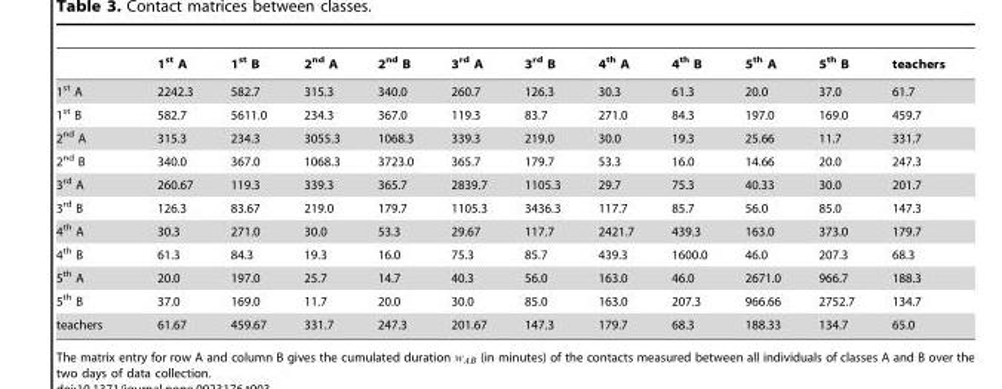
<table><thead><tr><td></td><td>1<sup>st</sup> A</td><td>1<sup>st</sup> B</td><td>2<sup>nd</sup> A</td><td>2<sup>nd</sup> B</td><td>3<sup>rd</sup> A</td><td>3<sup>rd</sup> B</td><td>4<sup>th</sup> A</td><td>4<sup>th</sup> B</td><td>5<sup>th</sup> A</td><td>5<sup>th</sup> B</td><td>teachers</td></tr></thead><tbody><tr><td>1<sup>st</sup> A</td><td>2242.3</td><td>582.7</td><td>315.3</td><td>340.0</td><td>260.7</td><td>126.3</td><td>30.3</td><td>61.3</td><td>20.0</td><td>37.0</td><td>61.7</td></tr><tr><td>1<sup>st</sup> B</td><td>582.7</td><td>5611.0</td><td>234.3</td><td>367.0</td><td>119.3</td><td>83.7</td><td>271.0</td><td>84.3</td><td>197.0</td><td>169.0</td><td>459.7</td></tr><tr><td>2<sup>nd</sup> A</td><td>315.3</td><td>234.3</td><td>3055.3</td><td>1068.3</td><td>339.3</td><td>219.0</td><td>30.0</td><td>19.3</td><td>25.66</td><td>11.7</td><td>331.7</td></tr><tr><td>2<sup>nd</sup> B</td><td>340.0</td><td>367.0</td><td>1068.3</td><td>3723.0</td><td>365.7</td><td>179.7</td><td>53.3</td><td>16.0</td><td>14.66</td><td>20.0</td><td>247.3</td></tr><tr><td>3<sup>rd</sup> A</td><td>260.67</td><td>119.3</td><td>339.3</td><td>365.7</td><td>2839.7</td><td>1105.3</td><td>29.7</td><td>75.3</td><td>40.33</td><td>30.0</td><td>201.7</td></tr><tr><td>3<sup>rd</sup> B</td><td>126.3</td><td>83.67</td><td>219.0</td><td>179.7</td><td>1105.3</td><td>3436.3</td><td>117.7</td><td>85.7</td><td>56.0</td><td>85.0</td><td>147.3</td></tr><tr><td>4<sup>th</sup> A</td><td>30.3</td><td>271.0</td><td>30.0</td><td>53.3</td><td>29.67</td><td>117.7</td><td>2421.7</td><td>439.3</td><td>163.0</td><td>373.0</td><td>179.7</td></tr><tr><td>4<sup>th</sup> B</td><td>61.3</td><td>84.3</td><td>19.3</td><td>16.0</td><td>75.3</td><td>85.7</td><td>439.3</td><td>1600.0</td><td>46.0</td><td>207.3</td><td>68.3</td></tr><tr><td>5<sup>th</sup> A</td><td>20.0</td><td>197.0</td><td>25.7</td><td>14.7</td><td>40.3</td><td>56.0</td><td>163.0</td><td>46.0</td><td>2671.0</td><td>966.7</td><td>188.3</td></tr><tr><td>5<sup>th</sup> B</td><td>37.0</td><td>169.0</td><td>11.7</td><td>20.0</td><td>30.0</td><td>85.0</td><td>163.0</td><td>207.3</td><td>966.66</td><td>2752.7</td><td>134.7</td></tr><tr><td>teachers</td><td>61.67</td><td>459.67</td><td>331.7</td><td>247.3</td><td>201.67</td><td>147.3</td><td>179.7</td><td>68.3</td><td>188.33</td><td>134.7</td><td>65.0</td></tr></tbody></table>